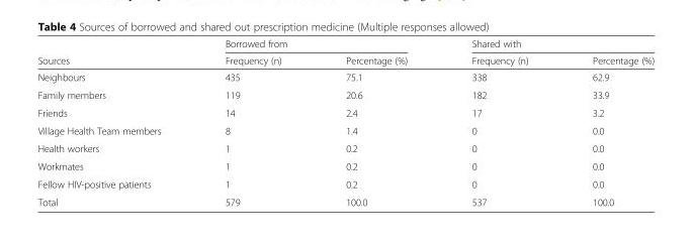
<table><thead><tr><td rowspan="2">Sources</td><td colspan="2">Borrowed from</td><td colspan="2">Shared with</td></tr><tr><td>Frequency (n)</td><td>Percentage (%)</td><td>Frequency (n)</td><td>Percentage (%)</td></tr></thead><tbody><tr><td>Neighbours</td><td>435</td><td>75.1</td><td>338</td><td>62.9</td></tr><tr><td>Family members</td><td>119</td><td>20.6</td><td>182</td><td>33.9</td></tr><tr><td>Friends</td><td>14</td><td>2.4</td><td>17</td><td>3.2</td></tr><tr><td>Village Health Team members</td><td>8</td><td>1.4</td><td>0</td><td>0.0</td></tr><tr><td>Health workers</td><td>1</td><td>0.2</td><td>0</td><td>0.0</td></tr><tr><td>Workmates</td><td>1</td><td>0.2</td><td>0</td><td>0.0</td></tr><tr><td>Fellow HIV-positive patients</td><td>1</td><td>0.2</td><td>0</td><td>0.0</td></tr><tr><td>Total</td><td>579</td><td>100.0</td><td>537</td><td>100.0</td></tr></tbody></table>